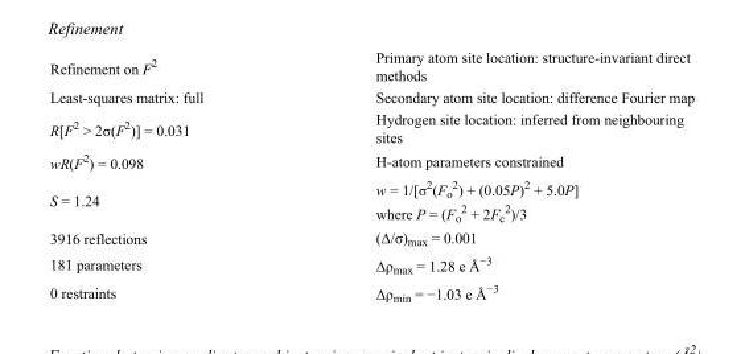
<table><tbody><tr><td>Refinement on F<sup>2</sup></td><td>Primary atom site location: structure-invariant direct methods</td></tr><tr><td>Least-squares matrix: full</td><td>Secondary atom site location: difference Fourier map</td></tr><tr><td>R[F<sup>2</sup> &gt; 2σ(F<sup>2</sup>)] = 0.031</td><td>Hydrogen site location: inferred from neighbouring sites</td></tr><tr><td>wR(F<sup>2</sup>) = 0.098</td><td>H-atom parameters constrained</td></tr><tr><td>S = 1.24</td><td>w = 1/[σ<sup>2</sup>(F<sub>o</sub> <sup>2</sup>) + (0.05P)<sup>2</sup> + 5.0P] where P = (F<sub>o</sub> <sup>2</sup> + 2F<sub>c</sub> <sup>2</sup>)/3</td></tr><tr><td>3916 reflections</td><td>(Δ/σ)<sub>max</sub> = 0.001</td></tr><tr><td>181 parameters</td><td>Δρ<sub>max</sub> = 1.28 e Å<sup>−3</sup></td></tr><tr><td>0 restraints</td><td>Δρ<sub>min</sub> = −1.03 e Å<sup>−3</sup></td></tr></tbody></table>